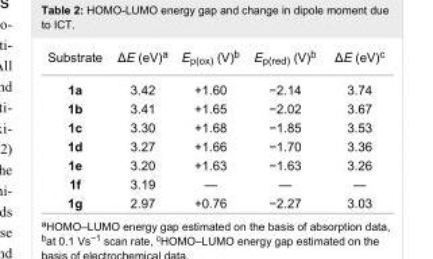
<table><tbody><tr><td>Substrate</td><td>ΔE (eV)<sup>a</sup></td><td>E<sub>p(ox)</sub> (V)<sup>b</sup></td><td>E<sub>p(red)</sub> (V)<sup>b</sup></td><td>ΔE (eV)<sup>c</sup></td></tr><tr><td>1a</td><td>3.42</td><td>+1.60</td><td>−2.14</td><td>3.74</td></tr><tr><td>1b</td><td>3.41</td><td>+1.65</td><td>−2.02</td><td>3.67</td></tr><tr><td>1c</td><td>3.30</td><td>+1.68</td><td>−1.85</td><td>3.53</td></tr><tr><td>1d</td><td>3.27</td><td>+1.66</td><td>−1.70</td><td>3.36</td></tr><tr><td>1e</td><td>3.20</td><td>+1.63</td><td>−1.63</td><td>3.26</td></tr><tr><td>1f</td><td>3.19</td><td>—</td><td>—</td><td>—</td></tr><tr><td>1g</td><td>2.97</td><td>+0.76</td><td>−2.27</td><td>3.03</td></tr></tbody></table>